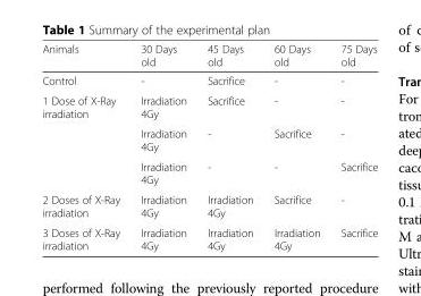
<table><thead><tr><td>Animals</td><td>30 Days old</td><td>45 Days old</td><td>60 Days old</td><td>75 Days old</td></tr></thead><tbody><tr><td>Control</td><td>-</td><td>Sacrifice</td><td>-</td><td>-</td></tr><tr><td rowspan="3">1 Dose of X-Ray irradiation</td><td>Irradiation 4Gy</td><td>Sacrifice</td><td>-</td><td>-</td></tr><tr><td>Irradiation 4Gy</td><td>-</td><td>Sacrifice</td><td>-</td></tr><tr><td>Irradiation 4Gy</td><td>-</td><td>-</td><td>Sacrifice</td></tr><tr><td>2 Doses of X-Ray irradiation</td><td>Irradiation 4Gy</td><td>Irradiation 4Gy</td><td>Sacrifice</td><td>-</td></tr><tr><td>3 Doses of X-Ray irradiation</td><td>Irradiation 4Gy</td><td>Irradiation 4Gy</td><td>Irradiation 4Gy</td><td>Sacrifice</td></tr></tbody></table>